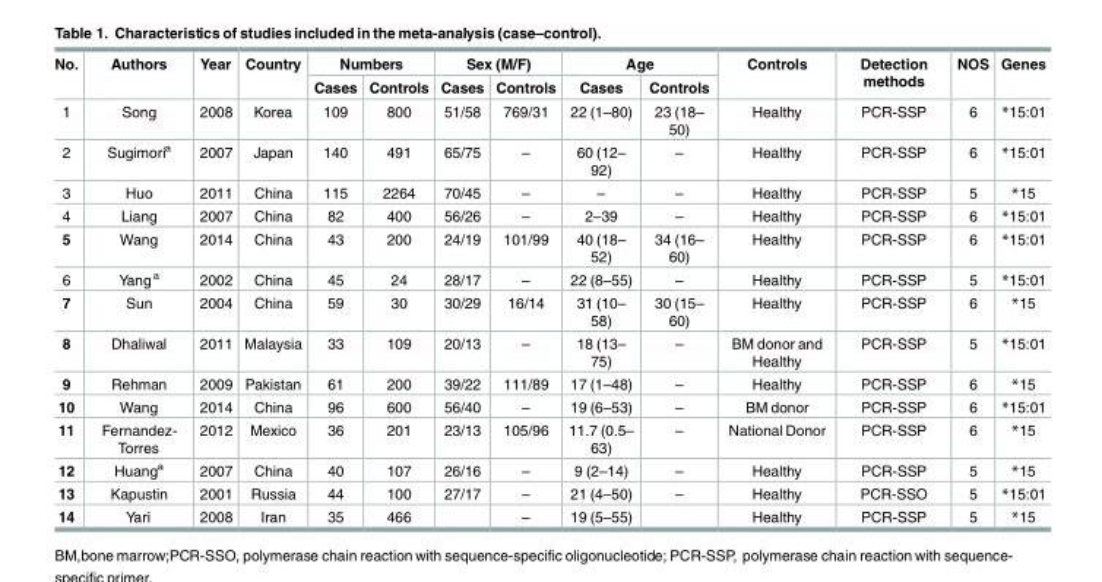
<table><thead><tr><td rowspan="2">No.</td><td rowspan="2">Authors</td><td rowspan="2">Year</td><td rowspan="2">Country</td><td colspan="2">Numbers</td><td colspan="2">Sex (M/F)</td><td colspan="2">Age</td><td rowspan="2">Controls</td><td rowspan="2">Detection methods</td><td rowspan="2">NOS</td><td rowspan="2">Genes</td></tr><tr><td>Cases</td><td>Controls</td><td>Cases</td><td>Controls</td><td>Cases</td><td>Controls</td></tr></thead><tbody><tr><td>1</td><td>Song</td><td>2008</td><td>Korea</td><td>109</td><td>800</td><td>51/58</td><td>769/31</td><td>22 (1–80)</td><td>23 (18– 50)</td><td>Healthy</td><td>PCR-SSP</td><td>6</td><td>*15:01</td></tr><tr><td>2</td><td>Sugimori<sup>a</sup></td><td>2007</td><td>Japan</td><td>140</td><td>491</td><td>65/75</td><td>–</td><td>60 (12– 92)</td><td>–</td><td>Healthy</td><td>PCR-SSP</td><td>6</td><td>*15:01</td></tr><tr><td>3</td><td>Huo</td><td>2011</td><td>China</td><td>115</td><td>2264</td><td>70/45</td><td>–</td><td>–</td><td>–</td><td>Healthy</td><td>PCR-SSP</td><td>5</td><td>*15</td></tr><tr><td>4</td><td>Liang</td><td>2007</td><td>China</td><td>82</td><td>400</td><td>56/26</td><td>–</td><td>2–39</td><td>–</td><td>Healthy</td><td>PCR-SSP</td><td>6</td><td>*15:01</td></tr><tr><td>5</td><td>Wang</td><td>2014</td><td>China</td><td>43</td><td>200</td><td>24/19</td><td>101/99</td><td>40 (18– 52)</td><td>34 (16– 60)</td><td>Healthy</td><td>PCR-SSP</td><td>6</td><td>*15:01</td></tr><tr><td>6</td><td>Yang <sup>a</sup></td><td>2002</td><td>China</td><td>45</td><td>24</td><td>28/17</td><td>–</td><td>22 (8–55)</td><td>–</td><td>Healthy</td><td>PCR-SSP</td><td>5</td><td>*15:01</td></tr><tr><td>7</td><td>Sun</td><td>2004</td><td>China</td><td>59</td><td>30</td><td>30/29</td><td>16/14</td><td>31 (10– 58)</td><td>30 (15– 60)</td><td>Healthy</td><td>PCR-SSP</td><td>6</td><td>*15</td></tr><tr><td>8</td><td>Dhaliwal</td><td>2011</td><td>Malaysia</td><td>33</td><td>109</td><td>20/13</td><td>–</td><td>18 (13– 75)</td><td>–</td><td>BM donor and Healthy</td><td>PCR-SSP</td><td>5</td><td>*15:01</td></tr><tr><td>9</td><td>Rehman</td><td>2009</td><td>Pakistan</td><td>61</td><td>200</td><td>39/22</td><td>111/89</td><td>17 (1–48)</td><td>–</td><td>Healthy</td><td>PCR-SSP</td><td>6</td><td>*15</td></tr><tr><td>10</td><td>Wang</td><td>2014</td><td>China</td><td>96</td><td>600</td><td>56/40</td><td>–</td><td>19 (6–53)</td><td>–</td><td>BM donor</td><td>PCR-SSP</td><td>6</td><td>*15:01</td></tr><tr><td>11</td><td>Fernandez- Torres</td><td>2012</td><td>Mexico</td><td>36</td><td>201</td><td>23/13</td><td>105/96</td><td>11.7 (0.5– 63)</td><td>–</td><td>National Donor</td><td>PCR-SSP</td><td>6</td><td>*15</td></tr><tr><td>12</td><td>Huang<sup>a</sup></td><td>2007</td><td>China</td><td>40</td><td>107</td><td>26/16</td><td>–</td><td>9 (2–14)</td><td>–</td><td>Healthy</td><td>PCR-SSP</td><td>5</td><td>*15</td></tr><tr><td>13</td><td>Kapustin</td><td>2001</td><td>Russia</td><td>44</td><td>100</td><td>27/17</td><td>–</td><td>21 (4–50)</td><td>–</td><td>Healthy</td><td>PCR-SSO</td><td>5</td><td>*15:01</td></tr><tr><td>14</td><td>Yari</td><td>2008</td><td>Iran</td><td>35</td><td>466</td><td></td><td>–</td><td>19 (5–55)</td><td></td><td>Healthy</td><td>PCR-SSP</td><td>5</td><td>*15</td></tr></tbody></table>